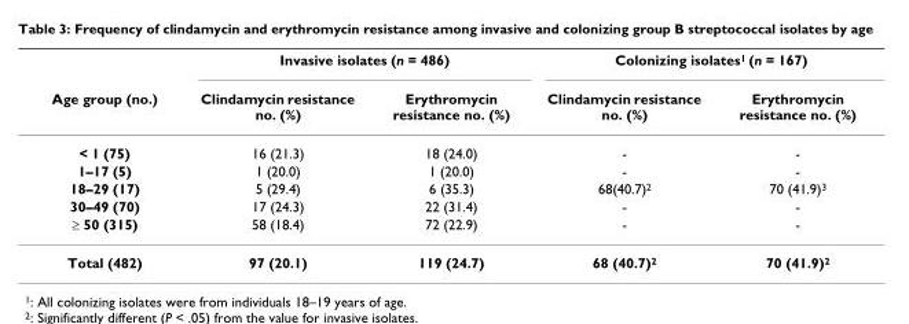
<table><thead><tr><td rowspan="2">Age group (no.)</td><td colspan="2">Invasive isolates (n = 486)</td><td colspan="2">Colonizing isolates<sup>1</sup> (n = 167)</td></tr><tr><td>Clindamycin resistance no. (%)</td><td>Erythromycin resistance no. (%)</td><td>Clindamycin resistance no. (%)</td><td>Erythromycin resistance no. (%)</td></tr></thead><tbody><tr><td>&lt; 1 (75)</td><td>16 (21.3)</td><td>18 (24.0)</td><td>-</td><td>-</td></tr><tr><td>1–17 (5)</td><td>1 (20.0)</td><td>1 (20.0)</td><td>-</td><td>-</td></tr><tr><td>18–29 (17)</td><td>5 (29.4)</td><td>6 (35.3)</td><td>68(40.7)<sup>2</sup></td><td>70 (41.9)<sup>3</sup></td></tr><tr><td>30–49 (70)</td><td>17 (24.3)</td><td>22 (31.4)</td><td>-</td><td>-</td></tr><tr><td>≥ 50 (315)</td><td>58 (18.4)</td><td>72 (22.9)</td><td>-</td><td>-</td></tr><tr><td>Total (482)</td><td>97 (20.1)</td><td>119 (24.7)</td><td>68 (40.7)<sup>2</sup></td><td>70 (41.9)<sup>2</sup></td></tr></tbody></table>